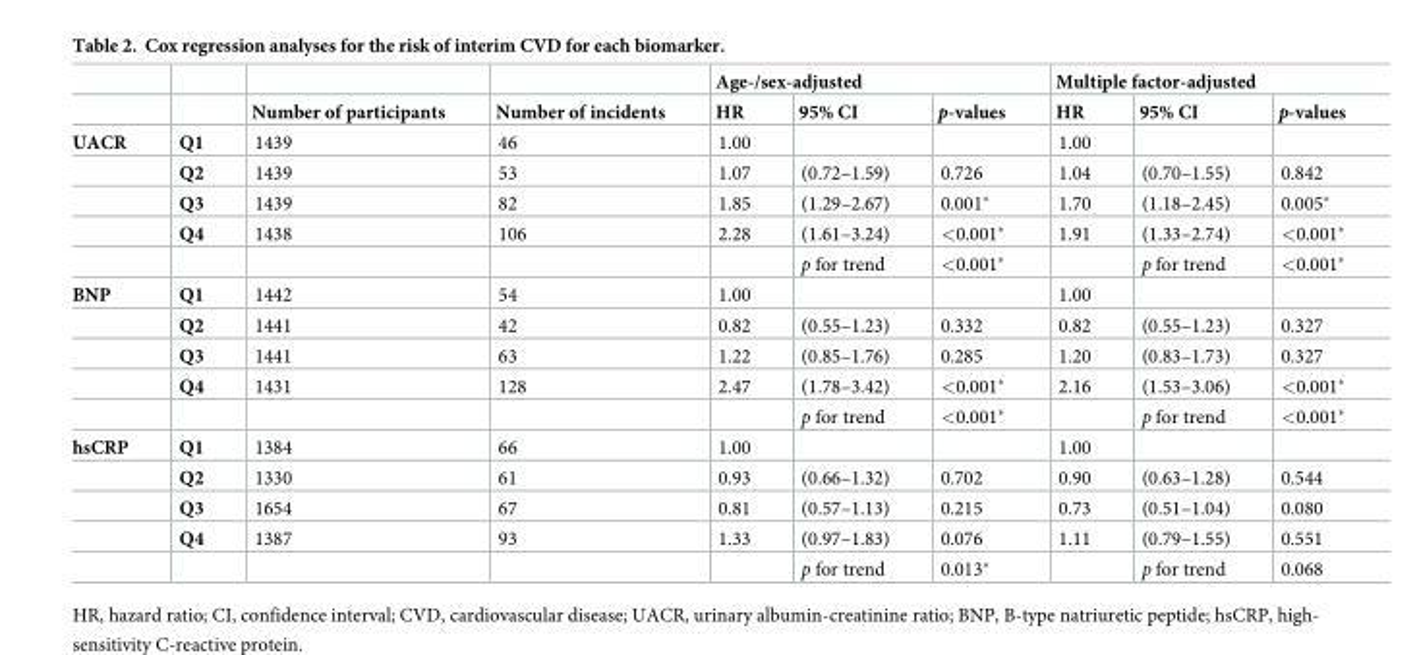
<table><thead><tr><td rowspan="2"></td><td rowspan="2"></td><td rowspan="2">Number of participants</td><td rowspan="2">Number of incidents</td><td colspan="3">Age-/sex-adjusted</td><td colspan="3">Multiple factor-adjusted</td></tr><tr><td>HR</td><td>95% CI</td><td>p-values</td><td>HR</td><td>95% CI</td><td>p-values</td></tr></thead><tbody><tr><td rowspan="5">UACR</td><td>Q1</td><td>1439</td><td>46</td><td>1.00</td><td></td><td></td><td>1.00</td><td></td><td></td></tr><tr><td>Q2</td><td>1439</td><td>53</td><td>1.07</td><td>(0.72–1.59)</td><td>0.726</td><td>1.04</td><td>(0.70–1.55)</td><td>0.842</td></tr><tr><td>Q3</td><td>1439</td><td>82</td><td>1.85</td><td>(1.29–2.67)</td><td>0.001*</td><td>1.70</td><td>(1.18–2.45)</td><td>0.005*</td></tr><tr><td>Q4</td><td>1438</td><td>106</td><td>2.28</td><td>(1.61–3.24)</td><td>&lt;0.001*</td><td>1.91</td><td>(1.33–2.74)</td><td>&lt;0.001*</td></tr><tr><td></td><td></td><td></td><td></td><td>p for trend</td><td>&lt;0.001*</td><td></td><td>p for trend</td><td>&lt;0.001*</td></tr><tr><td rowspan="5">BNP</td><td>Q1</td><td>1442</td><td>54</td><td>1.00</td><td></td><td></td><td>1.00</td><td></td><td></td></tr><tr><td>Q2</td><td>1441</td><td>42</td><td>0.82</td><td>(0.55–1.23)</td><td>0.332</td><td>0.82</td><td>(0.55–1.23)</td><td>0.327</td></tr><tr><td>Q3</td><td>1441</td><td>63</td><td>1.22</td><td>(0.85–1.76)</td><td>0.285</td><td>1.20</td><td>(0.83–1.73)</td><td>0.327</td></tr><tr><td>Q4</td><td>1431</td><td>128</td><td>2.47</td><td>(1.78–3.42)</td><td>&lt;0.001*</td><td>2.16</td><td>(1.53–3.06)</td><td>&lt;0.001*</td></tr><tr><td></td><td></td><td></td><td></td><td>p for trend</td><td>&lt;0.001*</td><td></td><td>p for trend</td><td>&lt;0.001*</td></tr><tr><td rowspan="5">hsCRP</td><td>Q1</td><td>1384</td><td>66</td><td>1.00</td><td></td><td></td><td>1.00</td><td></td><td></td></tr><tr><td>Q2</td><td>1330</td><td>61</td><td>0.93</td><td>(0.66–1.32)</td><td>0.702</td><td>0.90</td><td>(0.63–1.28)</td><td>0.544</td></tr><tr><td>Q3</td><td>1654</td><td>67</td><td>0.81</td><td>(0.57–1.13)</td><td>0.215</td><td>0.73</td><td>(0.51–1.04)</td><td>0.080</td></tr><tr><td>Q4</td><td>1387</td><td>93</td><td>1.33</td><td>(0.97–1.83)</td><td>0.076</td><td>1.11</td><td>(0.79–1.55)</td><td>0.551</td></tr><tr><td></td><td></td><td></td><td></td><td>p for trend</td><td>0.013*</td><td></td><td>p for trend</td><td>0.068</td></tr></tbody></table>